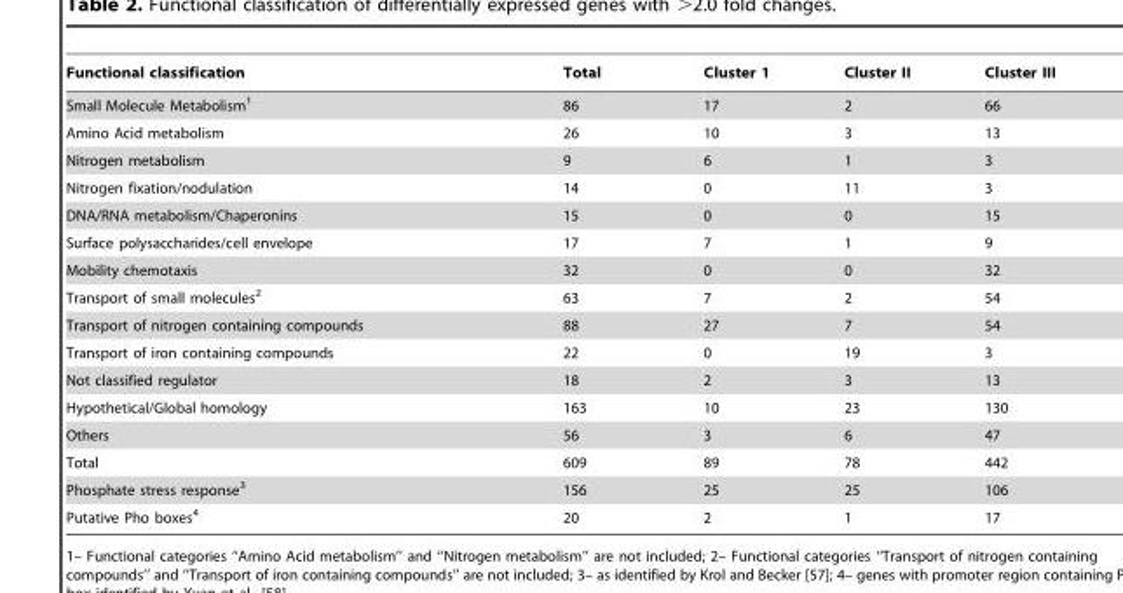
<table><thead><tr><td>Functional classification</td><td>Total</td><td>Cluster 1</td><td>Cluster II</td><td>Cluster III</td></tr></thead><tbody><tr><td>Small Molecule Metabolism<sup>1</sup></td><td>86</td><td>17</td><td>2</td><td>66</td></tr><tr><td>Amino Acid metabolism</td><td>26</td><td>10</td><td>3</td><td>13</td></tr><tr><td>Nitrogen metabolism</td><td>9</td><td>6</td><td>1</td><td>3</td></tr><tr><td>Nitrogen fixation/nodulation</td><td>14</td><td>0</td><td>11</td><td>3</td></tr><tr><td>DNA/RNA metabolism/Chaperonins</td><td>15</td><td>0</td><td>0</td><td>15</td></tr><tr><td>Surface polysaccharides/cell envelope</td><td>17</td><td>7</td><td>1</td><td>9</td></tr><tr><td>Mobility chemotaxis</td><td>32</td><td>0</td><td>0</td><td>32</td></tr><tr><td>Transport of small molecules<sup>2</sup></td><td>63</td><td>7</td><td>2</td><td>54</td></tr><tr><td>Transport of nitrogen containing compounds</td><td>88</td><td>27</td><td>7</td><td>54</td></tr><tr><td>Transport of iron containing compounds</td><td>22</td><td>0</td><td>19</td><td>3</td></tr><tr><td>Not classified regulator</td><td>18</td><td>2</td><td>3</td><td>13</td></tr><tr><td>Hypothetical/Global homology</td><td>163</td><td>10</td><td>23</td><td>130</td></tr><tr><td>Others</td><td>56</td><td>3</td><td>6</td><td>47</td></tr><tr><td>Total</td><td>609</td><td>89</td><td>78</td><td>442</td></tr><tr><td>Phosphate stress response<sup>3</sup></td><td>156</td><td>25</td><td>25</td><td>106</td></tr><tr><td>Putative Pho boxes<sup>4</sup></td><td>20</td><td>2</td><td>1</td><td>17</td></tr></tbody></table>